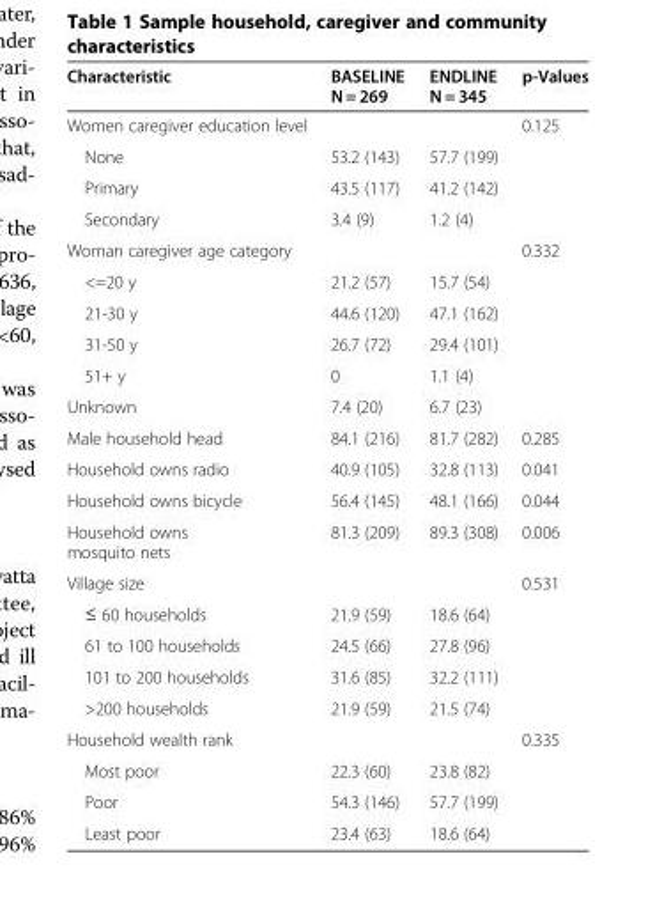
<table><thead><tr><td>Characteristic</td><td>BASELINE N = 269</td><td>ENDLINE N = 345</td><td>p-Values</td></tr></thead><tbody><tr><td>Women caregiver education level</td><td></td><td></td><td>0.125</td></tr><tr><td>None</td><td>53.2 (143)</td><td>57.7 (199)</td><td></td></tr><tr><td>Primary</td><td>43.5 (117)</td><td>41.2 (142)</td><td></td></tr><tr><td>Secondary</td><td>3.4 (9)</td><td>1.2 (4)</td><td></td></tr><tr><td>Woman caregiver age category</td><td></td><td></td><td>0.332</td></tr><tr><td>&lt;=20 y</td><td>21.2 (57)</td><td>15.7 (54)</td><td></td></tr><tr><td>21-30 y</td><td>44.6 (120)</td><td>47.1 (162)</td><td></td></tr><tr><td>31-50 y</td><td>26.7 (72)</td><td>29.4 (101)</td><td></td></tr><tr><td>51+ y</td><td>0</td><td>1.1 (4)</td><td></td></tr><tr><td>Unknown</td><td>7.4 (20)</td><td>6.7 (23)</td><td></td></tr><tr><td>Male household head</td><td>84.1 (216)</td><td>81.7 (282)</td><td>0.285</td></tr><tr><td>Household owns radio</td><td>40.9 (105)</td><td>32.8 (113)</td><td>0.041</td></tr><tr><td>Household owns bicycle</td><td>56.4 (145)</td><td>48.1 (166)</td><td>0.044</td></tr><tr><td>Household owns mosquito nets</td><td>81.3 (209)</td><td>89.3 (308)</td><td>0.006</td></tr><tr><td>Village size</td><td></td><td></td><td>0.531</td></tr><tr><td>≤ 60 households</td><td>21.9 (59)</td><td>18.6 (64)</td><td></td></tr><tr><td>61 to 100 households</td><td>24.5 (66)</td><td>27.8 (96)</td><td></td></tr><tr><td>101 to 200 households</td><td>31.6 (85)</td><td>32.2 (111)</td><td></td></tr><tr><td>&gt;200 households</td><td>21.9 (59)</td><td>21.5 (74)</td><td></td></tr><tr><td>Household wealth rank</td><td></td><td></td><td>0.335</td></tr><tr><td>Most poor</td><td>22.3 (60)</td><td>23.8 (82)</td><td></td></tr><tr><td>Poor</td><td>54.3 (146)</td><td>57.7 (199)</td><td></td></tr><tr><td>Least poor</td><td>23.4 (63)</td><td>18.6 (64)</td><td></td></tr></tbody></table>